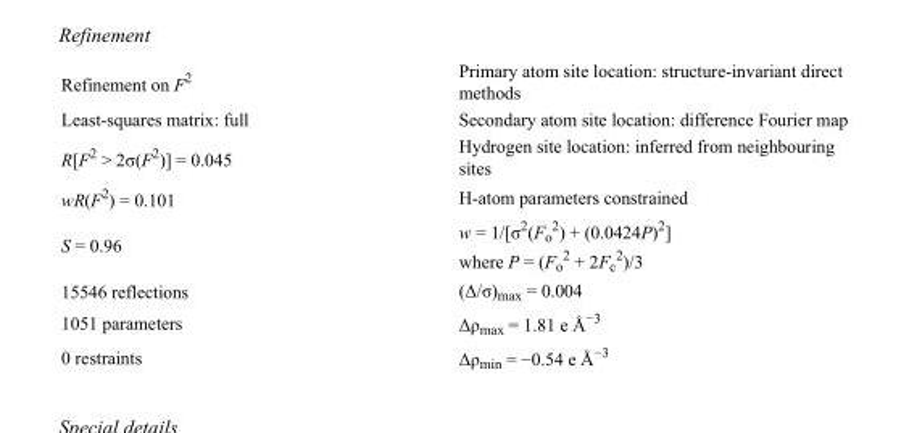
<table><tbody><tr><td>Refinement on F<sup>2</sup></td><td>Primary atom site location: structure-invariant direct methods</td></tr><tr><td>Least-squares matrix: full</td><td>Secondary atom site location: difference Fourier map</td></tr><tr><td>R[F<sup>2</sup> &gt; 2σ(F<sup>2</sup>)] = 0.045</td><td>Hydrogen site location: inferred from neighbouring sites</td></tr><tr><td>wR(F<sup>2</sup>) = 0.101</td><td>H-atom parameters constrained</td></tr><tr><td>S = 0.96</td><td>w = 1/[σ<sup>2</sup>(F<sub>o</sub> <sup>2</sup>) + (0.0424P)<sup>2</sup>] where P = (F<sub>o</sub> <sup>2</sup> + 2F<sub>c</sub> <sup>2</sup>)/3</td></tr><tr><td>15546 reflections</td><td>(Δ/σ)<sub>max</sub> = 0.004</td></tr><tr><td>1051 parameters</td><td>Δρ<sub>max</sub> = 1.81 e Å<sup>−3</sup></td></tr><tr><td>0 restraints</td><td>Δρ<sub>min</sub> = −0.54 e Å<sup>−3</sup></td></tr></tbody></table>